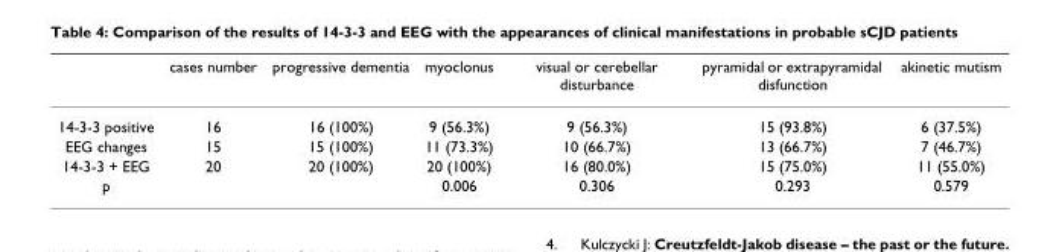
<table><thead><tr><td></td><td>cases number</td><td>progressive dementia</td><td>myoclonus</td><td>visual or cerebellar disturbance</td><td>pyramidal or extrapyramidal disfunction</td><td>akinetic mutism</td></tr></thead><tbody><tr><td>14-3-3 positive</td><td>16</td><td>16 (100%)</td><td>9 (56.3%)</td><td>9 (56.3%)</td><td>15 (93.8%)</td><td>6 (37.5%)</td></tr><tr><td>EEG changes</td><td>15</td><td>15 (100%)</td><td>11 (73.3%)</td><td>10 (66.7%)</td><td>13 (66.7%)</td><td>7 (46.7%)</td></tr><tr><td>14-3-3 + EEG</td><td>20</td><td>20 (100%)</td><td>20 (100%)</td><td>16 (80.0%)</td><td>15 (75.0%)</td><td>11 (55.0%)</td></tr><tr><td>p</td><td></td><td></td><td>0.006</td><td>0.306</td><td>0.293</td><td>0.579</td></tr></tbody></table>